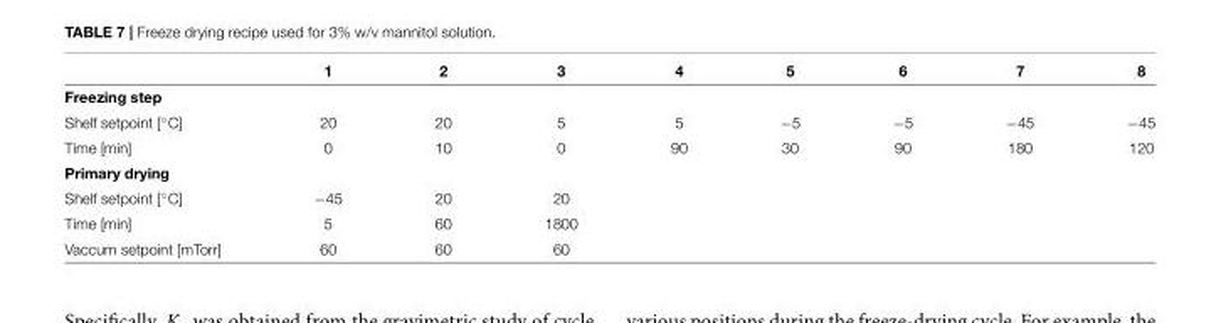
<table><thead><tr><td></td><td>1</td><td>2</td><td>3</td><td>4</td><td>5</td><td>6</td><td>7</td><td>8</td></tr></thead><tbody><tr><td colspan="9">Freezing step</td></tr><tr><td>Shelf setpoint [◦C]</td><td>20</td><td>20</td><td>5</td><td>5</td><td>−5</td><td>−5</td><td>−45</td><td>−45</td></tr><tr><td>Time [min]</td><td>0</td><td>10</td><td>0</td><td>90</td><td>30</td><td>90</td><td>180</td><td>120</td></tr><tr><td colspan="9">Primary drying</td></tr><tr><td>Shelf setpoint [◦C]</td><td>−45</td><td>20</td><td>20</td><td></td><td></td><td></td><td></td><td></td></tr><tr><td>Time [min]</td><td>5</td><td>60</td><td>1800</td><td></td><td></td><td></td><td></td><td></td></tr><tr><td>Vaccum setpoint [mTorr]</td><td>60</td><td>60</td><td>60</td><td></td><td></td><td></td><td></td><td></td></tr></tbody></table>